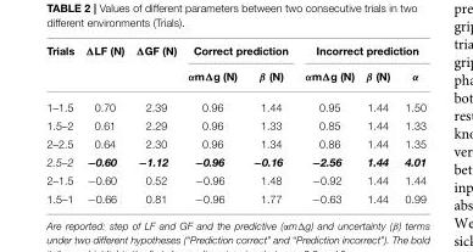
<table><thead><tr><td rowspan="2">Trials</td><td rowspan="2">ΔLF (N)</td><td rowspan="2">ΔGF (N)</td><td colspan="2">Correct prediction</td><td colspan="3">Incorrect prediction</td></tr><tr><td>αmΔg (N)</td><td>β (N)</td><td>αmΔg (N)</td><td>β (N)</td><td>α</td></tr></thead><tbody><tr><td>1–1.5</td><td>0.70</td><td>2.39</td><td>0.96</td><td>1.44</td><td>0.95</td><td>1.44</td><td>1.50</td></tr><tr><td>1.5–2</td><td>0.61</td><td>2.29</td><td>0.96</td><td>1.33</td><td>0.85</td><td>1.44</td><td>1.33</td></tr><tr><td>2–2.5</td><td>0.64</td><td>2.30</td><td>0.96</td><td>1.34</td><td>0.86</td><td>1.44</td><td>1.35</td></tr><tr><td>2.5–2</td><td>−0.60</td><td>−1.12</td><td>−0.96</td><td>−0.16</td><td>−2.56</td><td>1.44</td><td>4.01</td></tr><tr><td>2–1.5</td><td>−0.60</td><td>0.52</td><td>−0.96</td><td>1.48</td><td>−0.92</td><td>1.44</td><td>1.44</td></tr><tr><td>1.5–1</td><td>−0.66</td><td>0.81</td><td>−0.96</td><td>1.77</td><td>−0.63</td><td>1.44</td><td>0.99</td></tr></tbody></table>